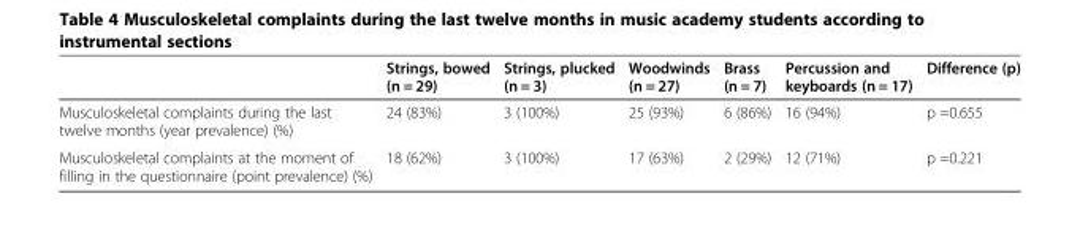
<table><thead><tr><td></td><td>Strings, bowed (n = 29)</td><td>Strings, plucked (n = 3)</td><td>Woodwinds (n = 27)</td><td>Brass (n = 7)</td><td>Percussion and keyboards (n = 17)</td><td>Difference (p)</td></tr></thead><tbody><tr><td>Musculoskeletal complaints during the last twelve months (year prevalence) (%)</td><td>24 (83%)</td><td>3 (100%)</td><td>25 (93%)</td><td>6 (86%)</td><td>16 (94%)</td><td>p =0.655</td></tr><tr><td>Musculoskeletal complaints at the moment of filling in the questionnaire (point prevalence) (%)</td><td>18 (62%)</td><td>3 (100%)</td><td>17 (63%)</td><td>2 (29%)</td><td>12 (71%)</td><td>p =0.221</td></tr></tbody></table>